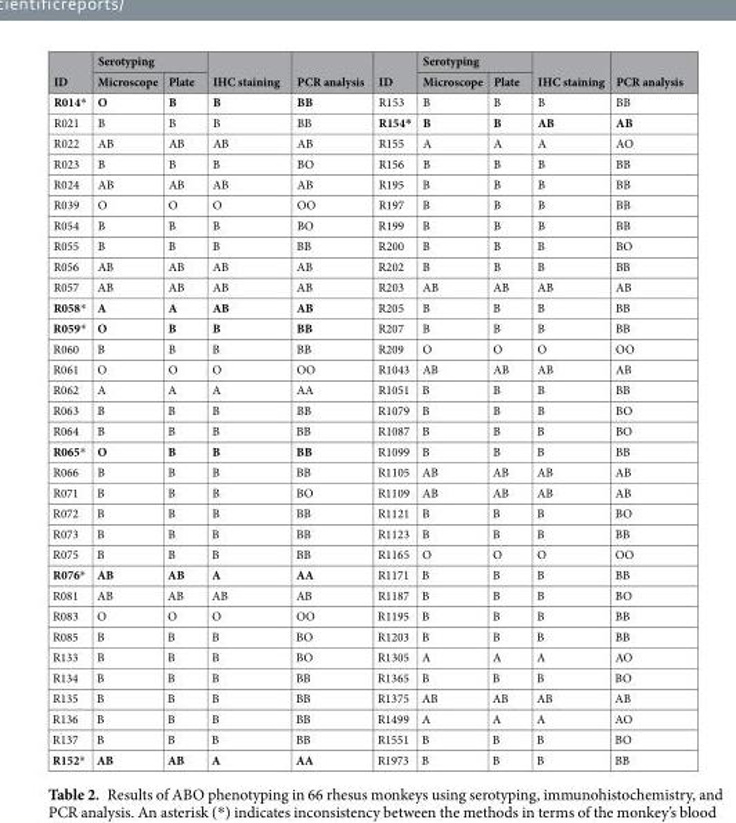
<table><thead><tr><td rowspan="2">ID</td><td colspan="2">Serotyping</td><td rowspan="2">IHC staining</td><td rowspan="2">PCR analysis</td><td rowspan="2">ID</td><td colspan="2">Serotyping</td><td rowspan="2">IHC staining</td><td rowspan="2">PCR analysis</td></tr><tr><td>Microscope</td><td>Plate</td><td>Microscope</td><td>Plate</td></tr></thead><tbody><tr><td>R014*</td><td>O</td><td>B</td><td>B</td><td>BB</td><td>R153</td><td>B</td><td>B</td><td>B</td><td>BB</td></tr><tr><td>R021</td><td>B</td><td>B</td><td>B</td><td>BB</td><td>R154*</td><td>B</td><td>B</td><td>AB</td><td>AB</td></tr><tr><td>R022</td><td>AB</td><td>AB</td><td>AB</td><td>AB</td><td>R155</td><td>A</td><td>A</td><td>A</td><td>AO</td></tr><tr><td>R023</td><td>B</td><td>B</td><td>B</td><td>BO</td><td>R156</td><td>B</td><td>B</td><td>B</td><td>BB</td></tr><tr><td>R024</td><td>AB</td><td>AB</td><td>AB</td><td>AB</td><td>R195</td><td>B</td><td>B</td><td>B</td><td>BB</td></tr><tr><td>R039</td><td>O</td><td>O</td><td>O</td><td>OO</td><td>R197</td><td>B</td><td>B</td><td>B</td><td>BB</td></tr><tr><td>R054</td><td>B</td><td>B</td><td>B</td><td>BO</td><td>R199</td><td>B</td><td>B</td><td>B</td><td>BB</td></tr><tr><td>R055</td><td>B</td><td>B</td><td>B</td><td>BB</td><td>R200</td><td>B</td><td>B</td><td>B</td><td>BO</td></tr><tr><td>R056</td><td>AB</td><td>AB</td><td>AB</td><td>AB</td><td>R202</td><td>B</td><td>B</td><td>B</td><td>BB</td></tr><tr><td>R057</td><td>AB</td><td>AB</td><td>AB</td><td>AB</td><td>R203</td><td>AB</td><td>AB</td><td>AB</td><td>AB</td></tr><tr><td>R058*</td><td>A</td><td>A</td><td>AB</td><td>AB</td><td>R205</td><td>B</td><td>B</td><td>B</td><td>BB</td></tr><tr><td>R059*</td><td>O</td><td>B</td><td>B</td><td>BB</td><td>R207</td><td>B</td><td>B</td><td>B</td><td>BB</td></tr><tr><td>R060</td><td>B</td><td>B</td><td>B</td><td>BB</td><td>R209</td><td>O</td><td>O</td><td>O</td><td>OO</td></tr><tr><td>R061</td><td>O</td><td>O</td><td>O</td><td>OO</td><td>R1043</td><td>AB</td><td>AB</td><td>AB</td><td>AB</td></tr><tr><td>R062</td><td>A</td><td>A</td><td>A</td><td>AA</td><td>R1051</td><td>B</td><td>B</td><td>B</td><td>BB</td></tr><tr><td>R063</td><td>B</td><td>B</td><td>B</td><td>BB</td><td>R1079</td><td>B</td><td>B</td><td>B</td><td>BO</td></tr><tr><td>R064</td><td>B</td><td>B</td><td>B</td><td>BB</td><td>R1087</td><td>B</td><td>B</td><td>B</td><td>BO</td></tr><tr><td>R065*</td><td>O</td><td>B</td><td>B</td><td>BB</td><td>R1099</td><td>B</td><td>B</td><td>B</td><td>BB</td></tr><tr><td>R066</td><td>B</td><td>B</td><td>B</td><td>BB</td><td>R1105</td><td>AB</td><td>AB</td><td>AB</td><td>AB</td></tr><tr><td>R071</td><td>B</td><td>B</td><td>B</td><td>BO</td><td>R1109</td><td>AB</td><td>AB</td><td>AB</td><td>AB</td></tr><tr><td>R072</td><td>B</td><td>B</td><td>B</td><td>BB</td><td>R1121</td><td>B</td><td>B</td><td>B</td><td>BO</td></tr><tr><td>R073</td><td>B</td><td>B</td><td>B</td><td>BB</td><td>R1123</td><td>B</td><td>B</td><td>B</td><td>BB</td></tr><tr><td>R075</td><td>B</td><td>B</td><td>B</td><td>BB</td><td>R1165</td><td>O</td><td>O</td><td>O</td><td>OO</td></tr><tr><td>R076*</td><td>AB</td><td>AB</td><td>A</td><td>AA</td><td>R1171</td><td>B</td><td>B</td><td>B</td><td>BB</td></tr><tr><td>R081</td><td>AB</td><td>AB</td><td>AB</td><td>AB</td><td>R1187</td><td>B</td><td>B</td><td>B</td><td>BO</td></tr><tr><td>R083</td><td>O</td><td>O</td><td>O</td><td>OO</td><td>R1195</td><td>B</td><td>B</td><td>B</td><td>BB</td></tr><tr><td>R085</td><td>B</td><td>B</td><td>B</td><td>BO</td><td>R1203</td><td>B</td><td>B</td><td>B</td><td>BB</td></tr><tr><td>R133</td><td>B</td><td>B</td><td>B</td><td>BO</td><td>R1305</td><td>A</td><td>A</td><td>A</td><td>AO</td></tr><tr><td>R134</td><td>B</td><td>B</td><td>B</td><td>BB</td><td>R1365</td><td>B</td><td>B</td><td>B</td><td>BO</td></tr><tr><td>R135</td><td>B</td><td>B</td><td>B</td><td>BB</td><td>R1375</td><td>AB</td><td>AB</td><td>AB</td><td>AB</td></tr><tr><td>R136</td><td>B</td><td>B</td><td>B</td><td>BB</td><td>R1499</td><td>A</td><td>A</td><td>A</td><td>AO</td></tr><tr><td>R137</td><td>B</td><td>B</td><td>B</td><td>BB</td><td>R1551</td><td>B</td><td>B</td><td>B</td><td>BO</td></tr><tr><td>R152*</td><td>AB</td><td>AB</td><td>A</td><td>AA</td><td>R1973</td><td>B</td><td>B</td><td>B</td><td>BB</td></tr></tbody></table>